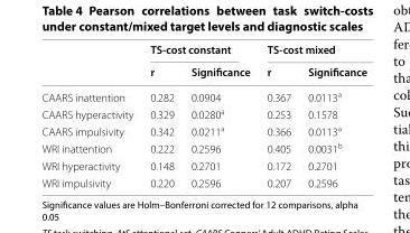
<table><thead><tr><td rowspan="2"></td><td colspan="2">TS-cost constant</td><td colspan="2">TS-cost mixed</td></tr><tr><td>r</td><td>Significance</td><td>r</td><td>Significance</td></tr></thead><tbody><tr><td>CAARS inattention</td><td>0.282</td><td>0.0904</td><td>0.367</td><td>0.0113<sup>a</sup></td></tr><tr><td>CAARS hyperactivity</td><td>0.329</td><td>0.0280<sup>a</sup></td><td>0.253</td><td>0.1578</td></tr><tr><td>CAARS impulsivity</td><td>0.342</td><td>0.0211<sup>a</sup></td><td>0.366</td><td>0.0113<sup>a</sup></td></tr><tr><td>WRI inattention</td><td>0.222</td><td>0.2596</td><td>0.405</td><td>0.0031<sup>b</sup></td></tr><tr><td>WRI hyperactivity</td><td>0.148</td><td>0.2701</td><td>0.172</td><td>0.2701</td></tr><tr><td>WRI impulsivity</td><td>0.220</td><td>0.2596</td><td>0.207</td><td>0.2596</td></tr></tbody></table>